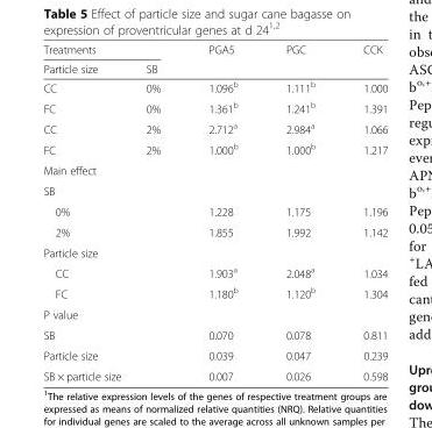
<table><thead><tr><td colspan="2">Treatments</td><td rowspan="2">PGA5</td><td rowspan="2">PGC</td><td rowspan="2">CCK</td></tr><tr><td>Particle size</td><td>SB</td></tr></thead><tbody><tr><td>CC</td><td>0%</td><td>1.096<sup>b</sup></td><td>1.111<sup>b</sup></td><td>1.000</td></tr><tr><td>FC</td><td>0%</td><td>1.361<sup>b</sup></td><td>1.241<sup>b</sup></td><td>1.391</td></tr><tr><td>CC</td><td>2%</td><td>2.712<sup>a</sup></td><td>2.984<sup>a</sup></td><td>1.066</td></tr><tr><td>FC</td><td>2%</td><td>1.000<sup>b</sup></td><td>1.000<sup>b</sup></td><td>1.217</td></tr><tr><td colspan="5">Main effect</td></tr><tr><td colspan="5">SB</td></tr><tr><td colspan="2">0%</td><td>1.228</td><td>1.175</td><td>1.196</td></tr><tr><td colspan="2">2%</td><td>1.855</td><td>1.992</td><td>1.142</td></tr><tr><td colspan="5">Particle size</td></tr><tr><td colspan="2">CC</td><td>1.903<sup>a</sup></td><td>2.048<sup>a</sup></td><td>1.034</td></tr><tr><td colspan="2">FC</td><td>1.180<sup>b</sup></td><td>1.120<sup>b</sup></td><td>1.304</td></tr><tr><td colspan="5">P value</td></tr><tr><td colspan="2">SB</td><td>0.070</td><td>0.078</td><td>0.811</td></tr><tr><td colspan="2">Particle size</td><td>0.039</td><td>0.047</td><td>0.239</td></tr><tr><td colspan="2">SB × particle size</td><td>0.007</td><td>0.026</td><td>0.598</td></tr></tbody></table>